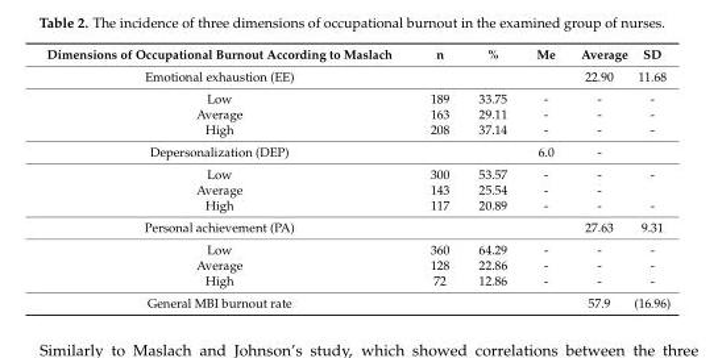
<table><thead><tr><td>Dimensions of Occupational Burnout According to Maslach</td><td>n</td><td>%</td><td>Me</td><td>Average</td><td>SD</td></tr></thead><tbody><tr><td>Emotional exhaustion (EE)</td><td></td><td></td><td></td><td>22.90</td><td>11.68</td></tr><tr><td>Low</td><td>189</td><td>33.75</td><td>-</td><td>-</td><td>-</td></tr><tr><td>Average</td><td>163</td><td>29.11</td><td>-</td><td>-</td><td>-</td></tr><tr><td>High</td><td>208</td><td>37.14</td><td>-</td><td>-</td><td>-</td></tr><tr><td>Depersonalization (DEP)</td><td></td><td></td><td>6.0</td><td>-</td><td></td></tr><tr><td>Low</td><td>300</td><td>53.57</td><td>-</td><td>-</td><td>-</td></tr><tr><td>Average</td><td>143</td><td>25.54</td><td>-</td><td>-</td><td></td></tr><tr><td>High</td><td>117</td><td>20.89</td><td>-</td><td>-</td><td>-</td></tr><tr><td>Personal achievement (PA)</td><td></td><td></td><td></td><td>27.63</td><td>9.31</td></tr><tr><td>Low</td><td>360</td><td>64.29</td><td>-</td><td>-</td><td>-</td></tr><tr><td>Average</td><td>128</td><td>22.86</td><td>-</td><td>-</td><td>-</td></tr><tr><td>High</td><td>72</td><td>12.86</td><td>-</td><td>-</td><td>-</td></tr><tr><td>General MBI burnout rate</td><td></td><td></td><td></td><td>57.9</td><td>(16.96)</td></tr></tbody></table>